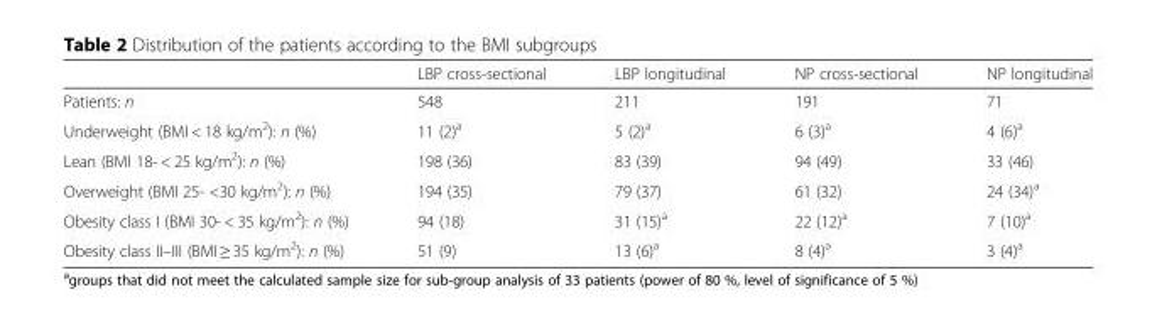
<table><thead><tr><td></td><td>LBP cross-sectional</td><td>LBP longitudinal</td><td>NP cross-sectional</td><td>NP longitudinal</td></tr></thead><tbody><tr><td>Patients: n</td><td>548</td><td>211</td><td>191</td><td>71</td></tr><tr><td>Underweight (BMI &lt; 18 kg/m<sup>2</sup>): n (%)</td><td>11 (2)<sup>a</sup></td><td>5 (2)<sup>a</sup></td><td>6 (3)<sup>a</sup></td><td>4 (6)<sup>a</sup></td></tr><tr><td>Lean (BMI 18- &lt; 25 kg/m<sup>2</sup>): n (%)</td><td>198 (36)</td><td>83 (39)</td><td>94 (49)</td><td>33 (46)</td></tr><tr><td>Overweight (BMI 25- &lt;30 kg/m<sup>2</sup>): n (%)</td><td>194 (35)</td><td>79 (37)</td><td>61 (32)</td><td>24 (34)<sup>a</sup></td></tr><tr><td>Obesity class I (BMI 30- &lt; 35 kg/m<sup>2</sup>): n (%)</td><td>94 (18)</td><td>31 (15)<sup>a</sup></td><td>22 (12)<sup>a</sup></td><td>7 (10)<sup>a</sup></td></tr><tr><td>Obesity class II–III (BMI ≥ 35 kg/m<sup>2</sup>): n (%)</td><td>51 (9)</td><td>13 (6)<sup>a</sup></td><td>8 (4)<sup>a</sup></td><td>3 (4)<sup>a</sup></td></tr></tbody></table>